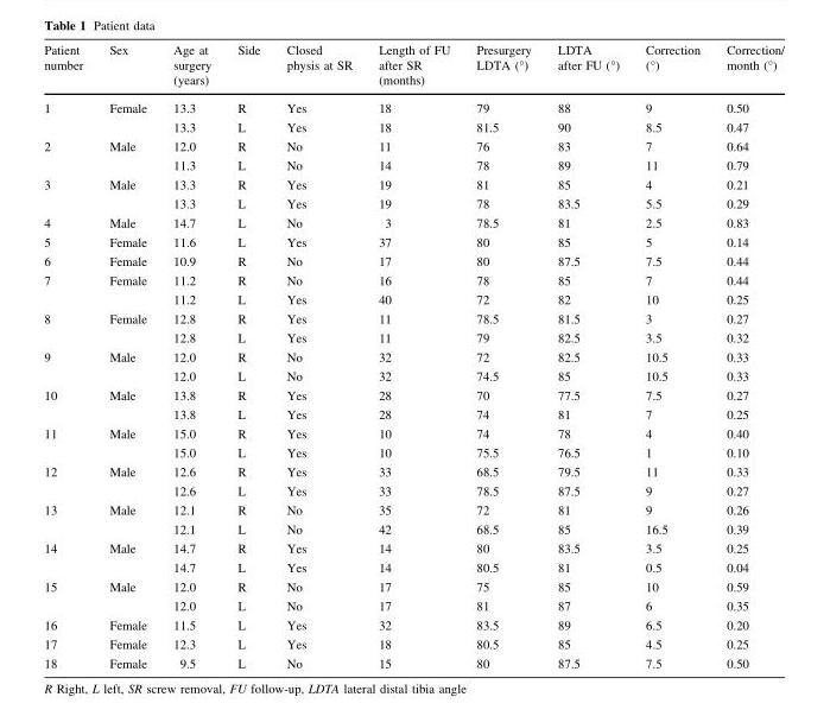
<table><thead><tr><td>Patient number</td><td>Sex</td><td>Age at surgery (years)</td><td>Side</td><td>Closed physis at SR</td><td>Length of FU after SR (months)</td><td>Presurgery LDTA (°)</td><td>LDTA after FU (°)</td><td>Correction (°)</td><td>Correction/ month (°)</td></tr></thead><tbody><tr><td rowspan="2">1</td><td rowspan="2">Female</td><td>13.3</td><td>R</td><td>Yes</td><td>18</td><td>79</td><td>88</td><td>9</td><td>0.50</td></tr><tr><td>13.3</td><td>L</td><td>Yes</td><td>18</td><td>81.5</td><td>90</td><td>8.5</td><td>0.47</td></tr><tr><td rowspan="2">2</td><td rowspan="2">Male</td><td>12.0</td><td>R</td><td>No</td><td>11</td><td>76</td><td>83</td><td>7</td><td>0.64</td></tr><tr><td>11.3</td><td>L</td><td>No</td><td>14</td><td>78</td><td>89</td><td>11</td><td>0.79</td></tr><tr><td rowspan="2">3</td><td rowspan="2">Male</td><td>13.3</td><td>R</td><td>Yes</td><td>19</td><td>81</td><td>85</td><td>4</td><td>0.21</td></tr><tr><td>13.3</td><td>L</td><td>Yes</td><td>19</td><td>78</td><td>83.5</td><td>5.5</td><td>0.29</td></tr><tr><td>4</td><td>Male</td><td>14.7</td><td>L</td><td>No</td><td>3</td><td>78.5</td><td>81</td><td>2.5</td><td>0.83</td></tr><tr><td>5</td><td>Female</td><td>11.6</td><td>L</td><td>Yes</td><td>37</td><td>80</td><td>85</td><td>5</td><td>0.14</td></tr><tr><td>6</td><td>Female</td><td>10.9</td><td>R</td><td>No</td><td>17</td><td>80</td><td>87.5</td><td>7.5</td><td>0.44</td></tr><tr><td rowspan="2">7</td><td rowspan="2">Female</td><td>11.2</td><td>R</td><td>No</td><td>16</td><td>78</td><td>85</td><td>7</td><td>0.44</td></tr><tr><td>11.2</td><td>L</td><td>Yes</td><td>40</td><td>72</td><td>82</td><td>10</td><td>0.25</td></tr><tr><td rowspan="2">8</td><td rowspan="2">Female</td><td>12.8</td><td>R</td><td>Yes</td><td>11</td><td>78.5</td><td>81.5</td><td>3</td><td>0.27</td></tr><tr><td>12.8</td><td>L</td><td>Yes</td><td>11</td><td>79</td><td>82.5</td><td>3.5</td><td>0.32</td></tr><tr><td rowspan="2">9</td><td rowspan="2">Male</td><td>12.0</td><td>R</td><td>No</td><td>32</td><td>72</td><td>82.5</td><td>10.5</td><td>0.33</td></tr><tr><td>12.0</td><td>L</td><td>No</td><td>32</td><td>74.5</td><td>85</td><td>10.5</td><td>0.33</td></tr><tr><td rowspan="2">10</td><td rowspan="2">Male</td><td>13.8</td><td>R</td><td>Yes</td><td>28</td><td>70</td><td>77.5</td><td>7.5</td><td>0.27</td></tr><tr><td>13.8</td><td>L</td><td>Yes</td><td>28</td><td>74</td><td>81</td><td>7</td><td>0.25</td></tr><tr><td rowspan="2">11</td><td rowspan="2">Male</td><td>15.0</td><td>R</td><td>Yes</td><td>10</td><td>74</td><td>78</td><td>4</td><td>0.40</td></tr><tr><td>15.0</td><td>L</td><td>Yes</td><td>10</td><td>75.5</td><td>76.5</td><td>1</td><td>0.10</td></tr><tr><td rowspan="2">12</td><td rowspan="2">Male</td><td>12.6</td><td>R</td><td>Yes</td><td>33</td><td>68.5</td><td>79.5</td><td>11</td><td>0.33</td></tr><tr><td>12.6</td><td>L</td><td>Yes</td><td>33</td><td>78.5</td><td>87.5</td><td>9</td><td>0.27</td></tr><tr><td rowspan="2">13</td><td rowspan="2">Male</td><td>12.1</td><td>R</td><td>No</td><td>35</td><td>72</td><td>81</td><td>9</td><td>0.26</td></tr><tr><td>12.1</td><td>L</td><td>No</td><td>42</td><td>68.5</td><td>85</td><td>16.5</td><td>0.39</td></tr><tr><td rowspan="2">14</td><td rowspan="2">Male</td><td>14.7</td><td>R</td><td>Yes</td><td>14</td><td>80</td><td>83.5</td><td>3.5</td><td>0.25</td></tr><tr><td>14.7</td><td>L</td><td>Yes</td><td>14</td><td>80.5</td><td>81</td><td>0.5</td><td>0.04</td></tr><tr><td rowspan="2">15</td><td rowspan="2">Male</td><td>12.0</td><td>R</td><td>No</td><td>17</td><td>75</td><td>85</td><td>10</td><td>0.59</td></tr><tr><td>12.0</td><td>L</td><td>No</td><td>17</td><td>81</td><td>87</td><td>6</td><td>0.35</td></tr><tr><td>16</td><td>Female</td><td>11.5</td><td>L</td><td>Yes</td><td>32</td><td>83.5</td><td>89</td><td>6.5</td><td>0.20</td></tr><tr><td>17</td><td>Female</td><td>12.3</td><td>L</td><td>Yes</td><td>18</td><td>80.5</td><td>85</td><td>4.5</td><td>0.25</td></tr><tr><td>18</td><td>Female</td><td>9.5</td><td>L</td><td>No</td><td>15</td><td>80</td><td>87.5</td><td>7.5</td><td>0.50</td></tr></tbody></table>